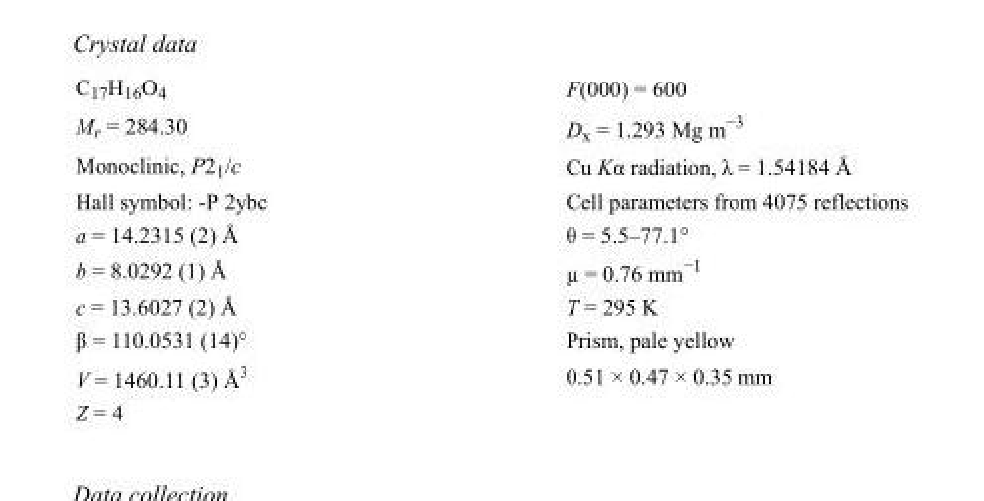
<table><tbody><tr><td>C<sub>17</sub>H<sub>16</sub>O<sub>4</sub></td><td>F(000) = 600</td></tr><tr><td>M<sub>r</sub> = 284.30</td><td>D<sub>x</sub> = 1.293 Mg m<sup>−3</sup></td></tr><tr><td>Monoclinic, P2<sub>1</sub>/c</td><td>Cu Kα radiation, λ = 1.54184 Å</td></tr><tr><td>Hall symbol: -P 2ybc</td><td>Cell parameters from 4075 reflections</td></tr><tr><td>a = 14.2315 (2) Å</td><td>θ = 5.5–77.1°</td></tr><tr><td>b = 8.0292 (1) Å</td><td>µ = 0.76 mm<sup>−1</sup></td></tr><tr><td>c = 13.6027 (2) Å</td><td>T = 295 K</td></tr><tr><td>β = 110.0531 (14)°</td><td>Prism, pale yellow</td></tr><tr><td>V = 1460.11 (3) Å<sup>3</sup></td><td>0.51 × 0.47 × 0.35 mm</td></tr><tr><td>Z = 4</td><td></td></tr></tbody></table>